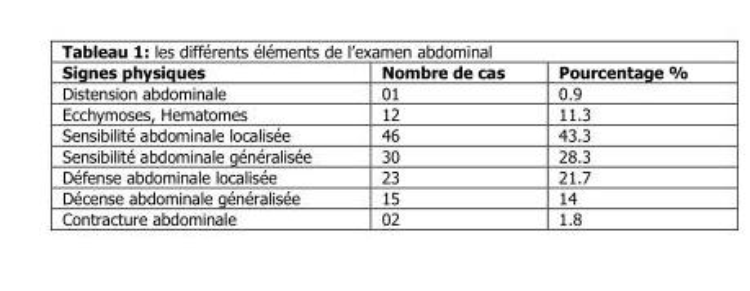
<table><thead><tr><td>Signes physiques</td><td>Nombre de cas</td><td>Pourcentage %</td></tr></thead><tbody><tr><td>Distension abdominale</td><td>01</td><td>0.9</td></tr><tr><td>Ecchymoses, Hematomes</td><td>12</td><td>11.3</td></tr><tr><td>Sensibilité abdominale localisée</td><td>46</td><td>43.3</td></tr><tr><td>Sensibilité abdominale généralisée</td><td>30</td><td>28.3</td></tr><tr><td>Défense abdominale localisée</td><td>23</td><td>21.7</td></tr><tr><td>Décense abdominale généralisée</td><td>15</td><td>14</td></tr><tr><td>Contracture abdominale</td><td>02</td><td>1.8</td></tr></tbody></table>